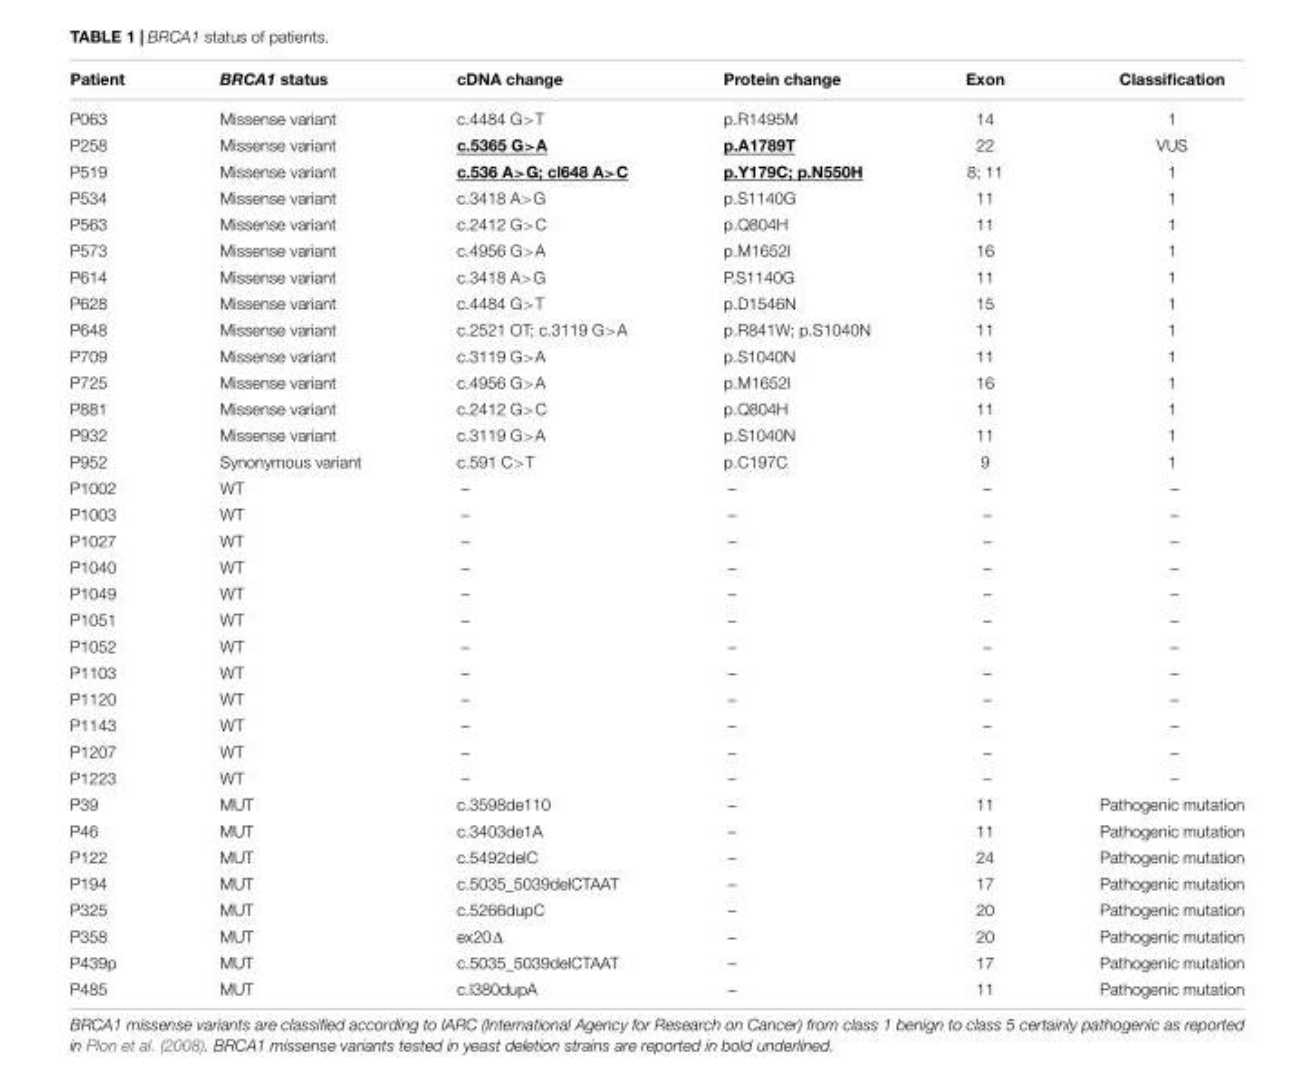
<table><thead><tr><td>Patient</td><td>BRCA1 status</td><td>cDNA change</td><td>Protein change</td><td>Exon</td><td>Classification</td></tr></thead><tbody><tr><td>P063</td><td>Missense variant</td><td>c.4484 G&gt;T</td><td>p.R1495M</td><td>14</td><td>1</td></tr><tr><td>P258</td><td>Missense variant</td><td>c.5365 G&gt;A</td><td>p.A1789T</td><td>22</td><td>VUS</td></tr><tr><td>P519</td><td>Missense variant</td><td>c.536 A&gt;G; cl648 A&gt;C</td><td>p.Y179C; p.N550H</td><td>8; 11</td><td>1</td></tr><tr><td>P534</td><td>Missense variant</td><td>c.3418 A&gt;G</td><td>p.S1140G</td><td>11</td><td>1</td></tr><tr><td>P563</td><td>Missense variant</td><td>c.2412 G&gt;C</td><td>p.Q804H</td><td>11</td><td>1</td></tr><tr><td>P573</td><td>Missense variant</td><td>c.4956 G&gt;A</td><td>p.M1652I</td><td>16</td><td>1</td></tr><tr><td>P614</td><td>Missense variant</td><td>c.3418 A&gt;G</td><td>P.S1140G</td><td>11</td><td>1</td></tr><tr><td>P628</td><td>Missense variant</td><td>c.4484 G&gt;T</td><td>p.D1546N</td><td>15</td><td>1</td></tr><tr><td>P648</td><td>Missense variant</td><td>c.2521 OT; c.3119 G&gt;A</td><td>p.R841W; p.S1040N</td><td>11</td><td>1</td></tr><tr><td>P709</td><td>Missense variant</td><td>c.3119 G&gt;A</td><td>p.S1040N</td><td>11</td><td>1</td></tr><tr><td>P725</td><td>Missense variant</td><td>c.4956 G&gt;A</td><td>p.M1652I</td><td>16</td><td>1</td></tr><tr><td>P881</td><td>Missense variant</td><td>c.2412 G&gt;C</td><td>p.Q804H</td><td>11</td><td>1</td></tr><tr><td>P932</td><td>Missense variant</td><td>c.3119 G&gt;A</td><td>p.S1040N</td><td>11</td><td>1</td></tr><tr><td>P952</td><td>Synonymous variant</td><td>c.591 C&gt;T</td><td>p.C197C</td><td>9</td><td>1</td></tr><tr><td>P1002</td><td>WT</td><td>–</td><td>–</td><td>–</td><td>–</td></tr><tr><td>P1003</td><td>WT</td><td>–</td><td>–</td><td>–</td><td>–</td></tr><tr><td>P1027</td><td>WT</td><td>–</td><td>–</td><td>–</td><td>–</td></tr><tr><td>P1040</td><td>WT</td><td>–</td><td>–</td><td>–</td><td>–</td></tr><tr><td>P1049</td><td>WT</td><td>–</td><td>–</td><td>–</td><td>–</td></tr><tr><td>P1051</td><td>WT</td><td>–</td><td>–</td><td>–</td><td>–</td></tr><tr><td>P1052</td><td>WT</td><td>–</td><td>–</td><td>–</td><td>–</td></tr><tr><td>P1103</td><td>WT</td><td>–</td><td>–</td><td>–</td><td>–</td></tr><tr><td>P1120</td><td>WT</td><td>–</td><td>–</td><td>–</td><td>–</td></tr><tr><td>P1143</td><td>WT</td><td>–</td><td>–</td><td>–</td><td>–</td></tr><tr><td>P1207</td><td>WT</td><td>–</td><td>–</td><td>–</td><td>–</td></tr><tr><td>P1223</td><td>WT</td><td>–</td><td>–</td><td>–</td><td>–</td></tr><tr><td>P39</td><td>MUT</td><td>c.3598de110</td><td>–</td><td>11</td><td>Pathogenic mutation</td></tr><tr><td>P46</td><td>MUT</td><td>c.3403de1A</td><td>–</td><td>11</td><td>Pathogenic mutation</td></tr><tr><td>P122</td><td>MUT</td><td>c.5492delC</td><td>–</td><td>24</td><td>Pathogenic mutation</td></tr><tr><td>P194</td><td>MUT</td><td>c.5035_5039delCTAAT</td><td>–</td><td>17</td><td>Pathogenic mutation</td></tr><tr><td>P325</td><td>MUT</td><td>c.5266dupC</td><td>–</td><td>20</td><td>Pathogenic mutation</td></tr><tr><td>P358</td><td>MUT</td><td>ex20Δ</td><td>–</td><td>20</td><td>Pathogenic mutation</td></tr><tr><td>P439p</td><td>MUT</td><td>c.5035_5039delCTAAT</td><td>–</td><td>17</td><td>Pathogenic mutation</td></tr><tr><td>P485</td><td>MUT</td><td>c.l380dupA</td><td>–</td><td>11</td><td>Pathogenic mutation</td></tr></tbody></table>